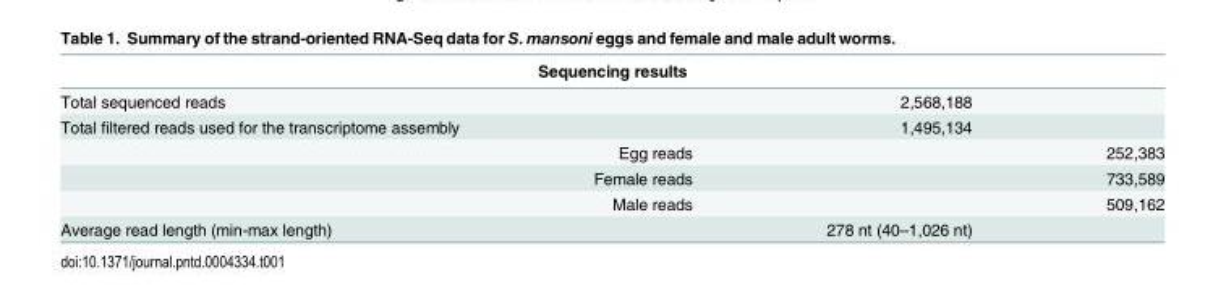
<table><thead><tr><td colspan="4">Sequencing results</td></tr><tr><td>Total sequenced reads</td><td></td><td>2,568,188</td><td></td></tr></thead><tbody><tr><td rowspan="4">Total filtered reads used for the transcriptome assembly</td><td></td><td>1,495,134</td><td></td></tr><tr><td>Egg reads</td><td></td><td>252,383</td></tr><tr><td>Female reads</td><td></td><td>733,589</td></tr><tr><td>Male reads</td><td></td><td>509,162</td></tr><tr><td>Average read length (min-max length)</td><td></td><td>278 nt (40–1,026 nt)</td><td></td></tr></tbody></table>